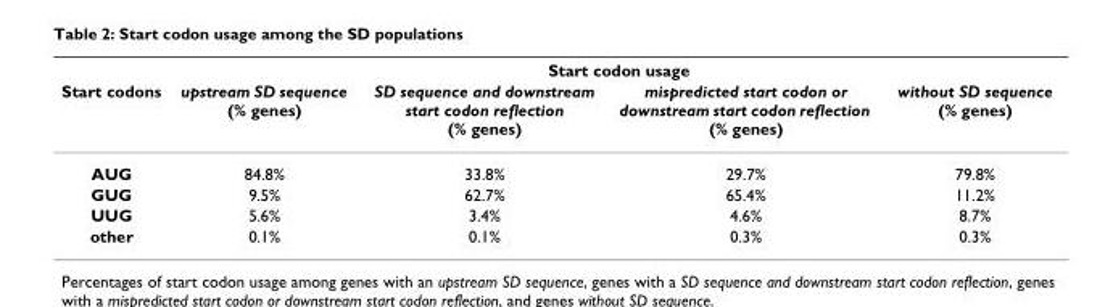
<table><thead><tr><td rowspan="2">Start codons</td><td colspan="4">Start codon usage</td></tr><tr><td>upstream SD sequence (% genes)</td><td>SD sequence and downstream start codon reflection (% genes)</td><td>mispredicted start codon or downstream start codon reflection (% genes)</td><td>without SD sequence (% genes)</td></tr></thead><tbody><tr><td>AUG</td><td>84.8%</td><td>33.8%</td><td>29.7%</td><td>79.8%</td></tr><tr><td>GUG</td><td>9.5%</td><td>62.7%</td><td>65.4%</td><td>11.2%</td></tr><tr><td>UUG</td><td>5.6%</td><td>3.4%</td><td>4.6%</td><td>8.7%</td></tr><tr><td>other</td><td>0.1%</td><td>0.1%</td><td>0.3%</td><td>0.3%</td></tr></tbody></table>